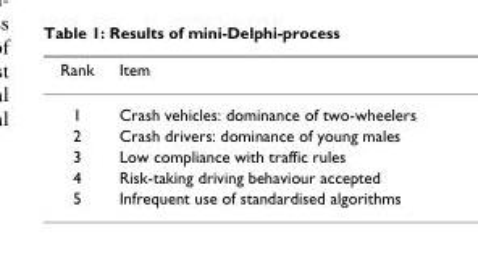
<table><thead><tr><td>Rank</td><td>Item</td></tr></thead><tbody><tr><td>1</td><td>Crash vehicles: dominance of two-wheelers</td></tr><tr><td>2</td><td>Crash drivers: dominance of young males</td></tr><tr><td>3</td><td>Low compliance with traffic rules</td></tr><tr><td>4</td><td>Risk-taking driving behaviour accepted</td></tr><tr><td>5</td><td>Infrequent use of standardised algorithms</td></tr></tbody></table>